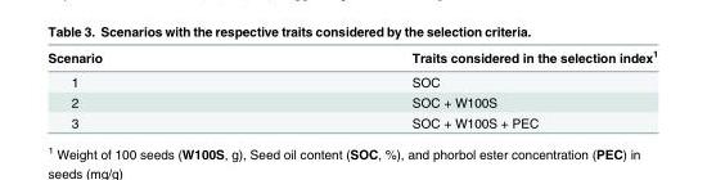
<table><thead><tr><td>Scenario</td><td>Traits considered in the selection index<sup>1</sup></td></tr></thead><tbody><tr><td>1</td><td>SOC</td></tr><tr><td>2</td><td>SOC + W100S</td></tr><tr><td>3</td><td>SOC + W100S + PEC</td></tr></tbody></table>